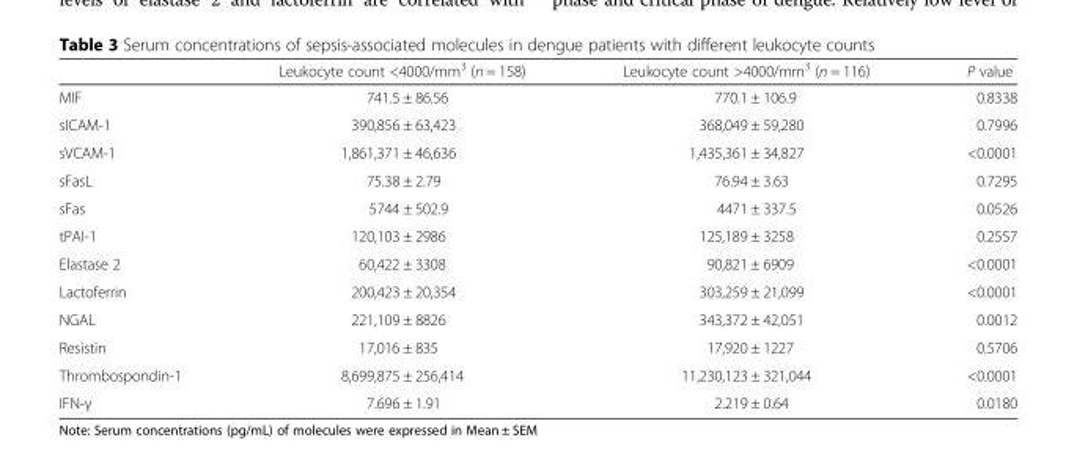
<table><thead><tr><td></td><td>Leukocyte count &lt;4000/mm<sup>3</sup> (n = 158)</td><td>Leukocyte count &gt;4000/mm<sup>3</sup> (n = 116)</td><td>P value</td></tr></thead><tbody><tr><td>MIF</td><td>741.5 ± 86.56</td><td>770.1 ± 106.9</td><td>0.8338</td></tr><tr><td>sICAM-1</td><td>390,856 ± 63,423</td><td>368,049 ± 59,280</td><td>0.7996</td></tr><tr><td>sVCAM-1</td><td>1,861,371 ± 46,636</td><td>1,435,361 ± 34,827</td><td>&lt;0.0001</td></tr><tr><td>sFasL</td><td>75.38 ± 2.79</td><td>76.94 ± 3.63</td><td>0.7295</td></tr><tr><td>sFas</td><td>5744 ± 502.9</td><td>4471 ± 337.5</td><td>0.0526</td></tr><tr><td>tPAI-1</td><td>120,103 ± 2986</td><td>125,189 ± 3258</td><td>0.2557</td></tr><tr><td>Elastase 2</td><td>60,422 ± 3308</td><td>90,821 ± 6909</td><td>&lt;0.0001</td></tr><tr><td>Lactoferrin</td><td>200,423 ± 20,354</td><td>303,259 ± 21,099</td><td>&lt;0.0001</td></tr><tr><td>NGAL</td><td>221,109 ± 8826</td><td>343,372 ± 42,051</td><td>0.0012</td></tr><tr><td>Resistin</td><td>17,016 ± 835</td><td>17,920 ± 1227</td><td>0.5706</td></tr><tr><td>Thrombospondin-1</td><td>8,699,875 ± 256,414</td><td>11,230,123 ± 321,044</td><td>&lt;0.0001</td></tr><tr><td>IFN-γ</td><td>7.696 ± 1.91</td><td>2.219 ± 0.64</td><td>0.0180</td></tr></tbody></table>